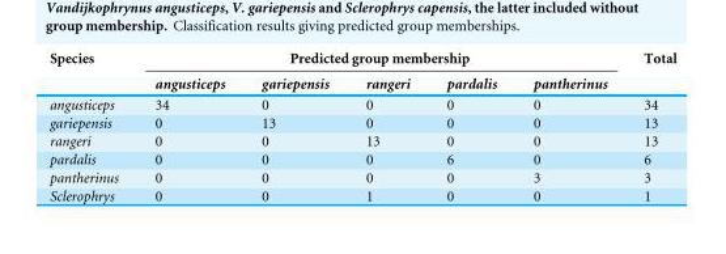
<table><thead><tr><td rowspan="2">Species</td><td colspan="5">Predicted group membership</td><td rowspan="2">Total</td></tr><tr><td>angusticeps</td><td>gariepensis</td><td>rangeri</td><td>pardalis</td><td>pantherinus</td></tr></thead><tbody><tr><td>angusticeps</td><td>34</td><td>0</td><td>0</td><td>0</td><td>0</td><td>34</td></tr><tr><td>gariepensis</td><td>0</td><td>13</td><td>0</td><td>0</td><td>0</td><td>13</td></tr><tr><td>rangeri</td><td>0</td><td>0</td><td>13</td><td>0</td><td>0</td><td>13</td></tr><tr><td>pardalis</td><td>0</td><td>0</td><td>0</td><td>6</td><td>0</td><td>6</td></tr><tr><td>pantherinus</td><td>0</td><td>0</td><td>0</td><td>0</td><td>3</td><td>3</td></tr><tr><td>Sclerophrys</td><td>0</td><td>0</td><td>1</td><td>0</td><td>0</td><td>1</td></tr></tbody></table>